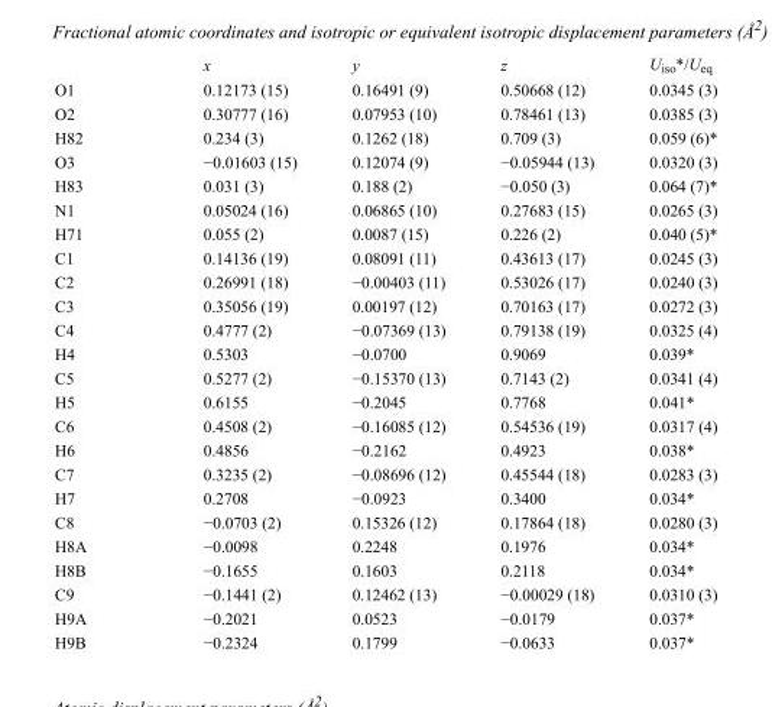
<table><thead><tr><td></td><td>x</td><td>y</td><td>z</td><td>U<sub>iso</sub>*/U<sub>eq</sub></td></tr></thead><tbody><tr><td>O1</td><td>0.12173 (15)</td><td>0.16491 (9)</td><td>0.50668 (12)</td><td>0.0345 (3)</td></tr><tr><td>O2</td><td>0.30777 (16)</td><td>0.07953 (10)</td><td>0.78461 (13)</td><td>0.0385 (3)</td></tr><tr><td>H82</td><td>0.234 (3)</td><td>0.1262 (18)</td><td>0.709 (3)</td><td>0.059 (6)*</td></tr><tr><td>O3</td><td>−0.01603 (15)</td><td>0.12074 (9)</td><td>−0.05944 (13)</td><td>0.0320 (3)</td></tr><tr><td>H83</td><td>0.031 (3)</td><td>0.188 (2)</td><td>−0.050 (3)</td><td>0.064 (7)*</td></tr><tr><td>N1</td><td>0.05024 (16)</td><td>0.06865 (10)</td><td>0.27683 (15)</td><td>0.0265 (3)</td></tr><tr><td>H71</td><td>0.055 (2)</td><td>0.0087 (15)</td><td>0.226 (2)</td><td>0.040 (5)*</td></tr><tr><td>C1</td><td>0.14136 (19)</td><td>0.08091 (11)</td><td>0.43613 (17)</td><td>0.0245 (3)</td></tr><tr><td>C2</td><td>0.26991 (18)</td><td>−0.00403 (11)</td><td>0.53026 (17)</td><td>0.0240 (3)</td></tr><tr><td>C3</td><td>0.35056 (19)</td><td>0.00197 (12)</td><td>0.70163 (17)</td><td>0.0272 (3)</td></tr><tr><td>C4</td><td>0.4777 (2)</td><td>−0.07369 (13)</td><td>0.79138 (19)</td><td>0.0325 (4)</td></tr><tr><td>H4</td><td>0.5303</td><td>−0.0700</td><td>0.9069</td><td>0.039*</td></tr><tr><td>C5</td><td>0.5277 (2)</td><td>−0.15370 (13)</td><td>0.7143 (2)</td><td>0.0341 (4)</td></tr><tr><td>H5</td><td>0.6155</td><td>−0.2045</td><td>0.7768</td><td>0.041*</td></tr><tr><td>C6</td><td>0.4508 (2)</td><td>−0.16085 (12)</td><td>0.54536 (19)</td><td>0.0317 (4)</td></tr><tr><td>H6</td><td>0.4856</td><td>−0.2162</td><td>0.4923</td><td>0.038*</td></tr><tr><td>C7</td><td>0.3235 (2)</td><td>−0.08696 (12)</td><td>0.45544 (18)</td><td>0.0283 (3)</td></tr><tr><td>H7</td><td>0.2708</td><td>−0.0923</td><td>0.3400</td><td>0.034*</td></tr><tr><td>C8</td><td>−0.0703 (2)</td><td>0.15326 (12)</td><td>0.17864 (18)</td><td>0.0280 (3)</td></tr><tr><td>H8A</td><td>−0.0098</td><td>0.2248</td><td>0.1976</td><td>0.034*</td></tr><tr><td>H8B</td><td>−0.1655</td><td>0.1603</td><td>0.2118</td><td>0.034*</td></tr><tr><td>C9</td><td>−0.1441 (2)</td><td>0.12462 (13)</td><td>−0.00029 (18)</td><td>0.0310 (3)</td></tr><tr><td>H9A</td><td>−0.2021</td><td>0.0523</td><td>−0.0179</td><td>0.037*</td></tr><tr><td>H9B</td><td>−0.2324</td><td>0.1799</td><td>−0.0633</td><td>0.037*</td></tr></tbody></table>